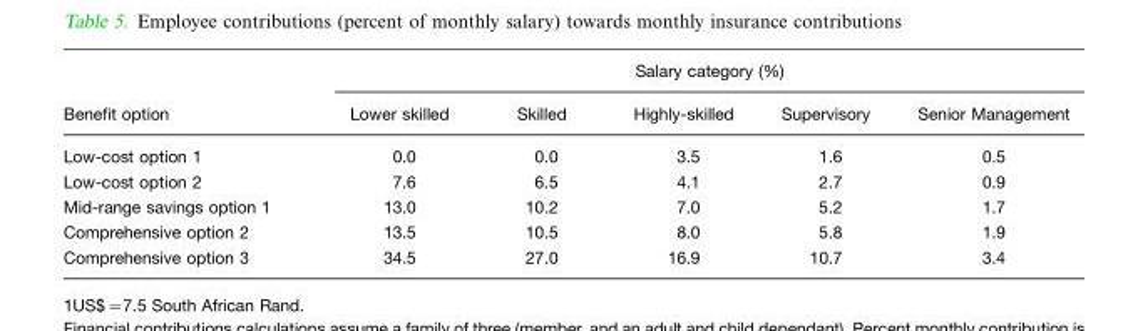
<table><thead><tr><td rowspan="2">Benefit option</td><td colspan="5">Salary category (%)</td></tr><tr><td>Lower skilled</td><td>Skilled</td><td>Highly-skilled</td><td>Supervisory</td><td>Senior Management</td></tr></thead><tbody><tr><td>Low-cost option 1</td><td>0.0</td><td>0.0</td><td>3.5</td><td>1.6</td><td>0.5</td></tr><tr><td>Low-cost option 2</td><td>7.6</td><td>6.5</td><td>4.1</td><td>2.7</td><td>0.9</td></tr><tr><td>Mid-range savings option 1</td><td>13.0</td><td>10.2</td><td>7.0</td><td>5.2</td><td>1.7</td></tr><tr><td>Comprehensive option 2</td><td>13.5</td><td>10.5</td><td>8.0</td><td>5.8</td><td>1.9</td></tr><tr><td>Comprehensive option 3</td><td>34.5</td><td>27.0</td><td>16.9</td><td>10.7</td><td>3.4</td></tr></tbody></table>